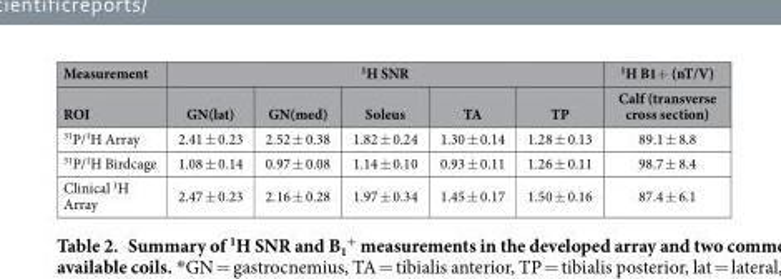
<table><thead><tr><td rowspan="2">Measurement ROI</td><td colspan="5"><sup>1</sup>H SNR</td><td rowspan="2"><sup>1</sup>H B1+ (nT/V) Calf (transverse cross section)</td></tr><tr><td>GN(lat)</td><td>GN(med)</td><td>Soleus</td><td>TA</td><td>TP</td></tr></thead><tbody><tr><td><sup>31</sup>P/<sup>1</sup>H Array</td><td>2.41 ± 0.23</td><td>2.52 ± 0.38</td><td>1.82 ± 0.24</td><td>1.30 ± 0.14</td><td>1.28 ± 0.13</td><td>89.1 ± 8.8</td></tr><tr><td><sup>31</sup>P/<sup>1</sup>H Birdcage</td><td>1.08 ± 0.14</td><td>0.97 ± 0.08</td><td>1.14 ± 0.10</td><td>0.93 ± 0.11</td><td>1.26 ± 0.11</td><td>98.7 ± 8.4</td></tr><tr><td>Clinical <sup>1</sup>H Array</td><td>2.47 ± 0.23</td><td>2.16 ± 0.28</td><td>1.97 ± 0.34</td><td>1.45 ± 0.17</td><td>1.50 ± 0.16</td><td>87.4 ± 6.1</td></tr></tbody></table>